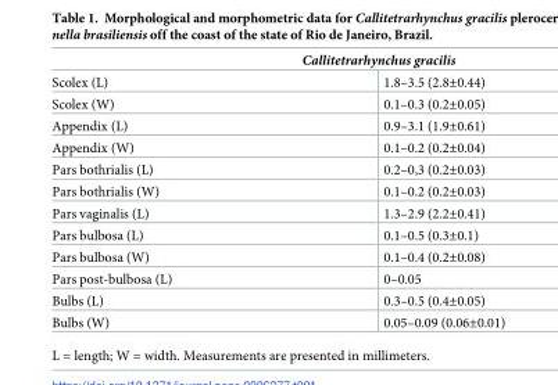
<table><thead><tr><td colspan="2">Callitetrarhynchus gracilis</td></tr><tr><td>Scolex (L)</td><td>1.8–3.5 (2.8±0.44)</td></tr></thead><tbody><tr><td>Scolex (W)</td><td>0.1–0.3 (0.2±0.05)</td></tr><tr><td>Appendix (L)</td><td>0.9–3.1 (1.9±0.61)</td></tr><tr><td>Appendix (W)</td><td>0.1–0.2 (0.2±0.04)</td></tr><tr><td>Pars bothrialis (L)</td><td>0.2–0,3 (0.2±0.03)</td></tr><tr><td>Pars bothrialis (W)</td><td>0.1–0.2 (0.2±0.03)</td></tr><tr><td>Pars vaginalis (L)</td><td>1.3–2.9 (2.2±0.41)</td></tr><tr><td>Pars bulbosa (L)</td><td>0.1–0.5 (0.3±0.1)</td></tr><tr><td>Pars bulbosa (W)</td><td>0.1–0.4 (0.2±0.08)</td></tr><tr><td>Pars post-bulbosa (L)</td><td>0–0.05</td></tr><tr><td>Bulbs (L)</td><td>0.3–0.5 (0.4±0.05)</td></tr><tr><td>Bulbs (W)</td><td>0.05–0.09 (0.06±0.01)</td></tr></tbody></table>